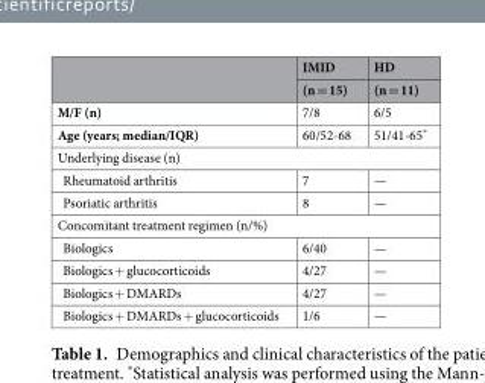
<table><thead><tr><td rowspan="2"></td><td rowspan="2">IMID (n = 15)</td><td rowspan="2">HD (n = 11)</td></tr><tr></tr></thead><tbody><tr><td>M/F (n)</td><td>7/8</td><td>6/5</td></tr><tr><td>Age (years; median/IQR)</td><td>60/52-68</td><td>51/41-65*</td></tr><tr><td colspan="3">Underlying disease (n)</td></tr><tr><td>Rheumatoid arthritis</td><td>7</td><td>—</td></tr><tr><td>Psoriatic arthritis</td><td>8</td><td>—</td></tr><tr><td colspan="3">Concomitant treatment regimen (n/%)</td></tr><tr><td>Biologics</td><td>6/40</td><td>—</td></tr><tr><td>Biologics + glucocorticoids</td><td>4/27</td><td>—</td></tr><tr><td>Biologics + DMARDs</td><td>4/27</td><td>—</td></tr><tr><td>Biologics + DMARDs + glucocorticoids</td><td>1/6</td><td>—</td></tr></tbody></table>